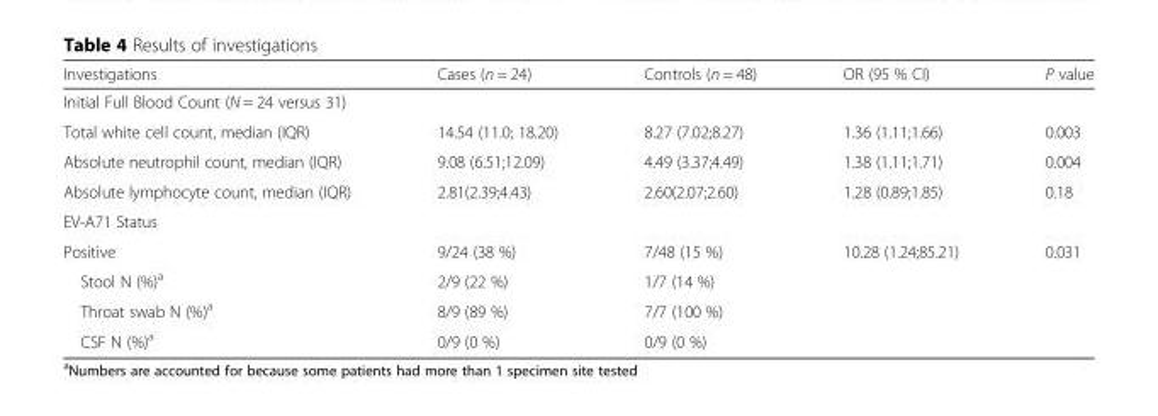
<table><thead><tr><td>Investigations</td><td>Cases (n = 24)</td><td>Controls (n = 48)</td><td>OR (95 % CI)</td><td>P value</td></tr></thead><tbody><tr><td colspan="5">Initial Full Blood Count (N = 24 versus 31)</td></tr><tr><td>Total white cell count, median (IQR)</td><td>14.54 (11.0; 18.20)</td><td>8.27 (7.02;8.27)</td><td>1.36 (1.11;1.66)</td><td>0.003</td></tr><tr><td>Absolute neutrophil count, median (IQR)</td><td>9.08 (6.51;12.09)</td><td>4.49 (3.37;4.49)</td><td>1.38 (1.11;1.71)</td><td>0.004</td></tr><tr><td>Absolute lymphocyte count, median (IQR)</td><td>2.81(2.39;4.43)</td><td>2.60(2.07;2.60)</td><td>1.28 (0.89;1.85)</td><td>0.18</td></tr><tr><td colspan="5">EV-A71 Status</td></tr><tr><td>Positive</td><td>9/24 (38 %)</td><td>7/48 (15 %)</td><td>10.28 (1.24;85.21)</td><td>0.031</td></tr><tr><td>Stool N (%)<sup>a</sup></td><td>2/9 (22 %)</td><td>1/7 (14 %)</td><td></td><td></td></tr><tr><td>Throat swab N (%)<sup>a</sup></td><td>8/9 (89 %)</td><td>7/7 (100 %)</td><td></td><td></td></tr><tr><td>CSF N (%)<sup>a</sup></td><td>0/9 (0 %)</td><td>0/9 (0 %)</td><td></td><td></td></tr></tbody></table>